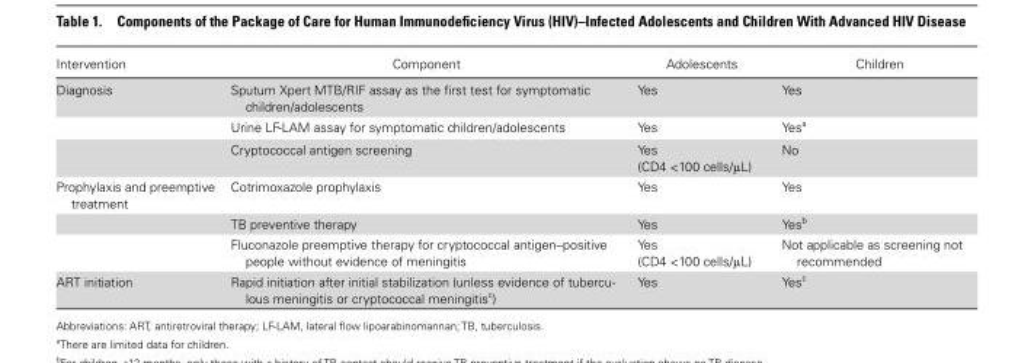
<table><thead><tr><td>Intervention</td><td>Component</td><td>Adolescents</td><td>Children</td></tr></thead><tbody><tr><td rowspan="3">Diagnosis</td><td>Sputum Xpert MTB/RIF assay as the first test for symptomatic children/adolescents</td><td>Yes</td><td>Yes</td></tr><tr><td>Urine LF-LAM assay for symptomatic children/adolescents</td><td>Yes</td><td>Yes<sup>a</sup></td></tr><tr><td>Cryptococcal antigen screening</td><td>Yes (CD4 &lt;100 cells/μL)</td><td>No</td></tr><tr><td rowspan="3">Prophylaxis and preemptive treatment</td><td>Cotrimoxazole prophylaxis</td><td>Yes</td><td>Yes</td></tr><tr><td>TB preventive therapy</td><td>Yes</td><td>Yes<sup>b</sup></td></tr><tr><td>Fluconazole preemptive therapy for cryptococcal antigen–positive people without evidence of meningitis</td><td>Yes (CD4 &lt;100 cells/μL)</td><td>Not applicable as screening not recommended</td></tr><tr><td>ART initiation</td><td>Rapid initiation after initial stabilization (unless evidence of tubercu- lous meningitis or cryptococcal meningitisc)</td><td>Yes</td><td>Yes<sup>c</sup></td></tr></tbody></table>